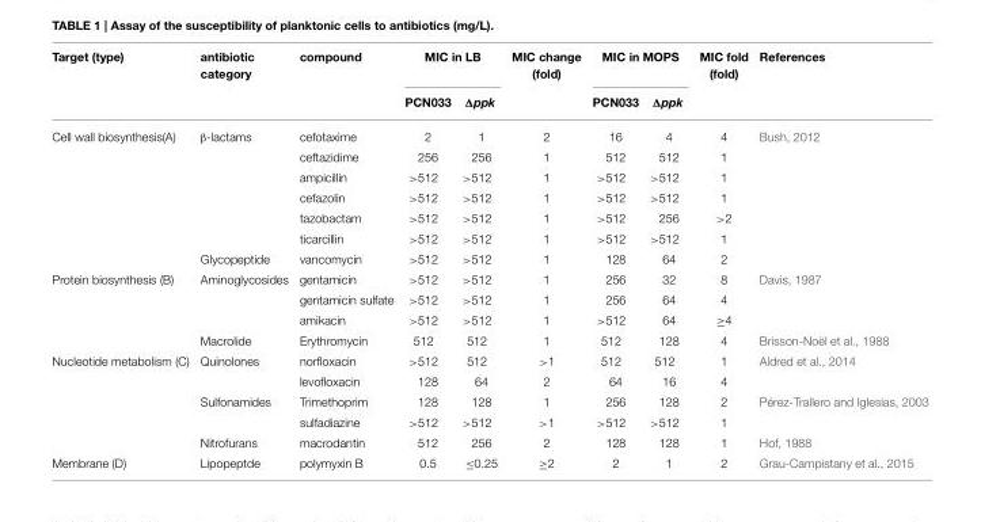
<table><thead><tr><td rowspan="2">Target (type)</td><td rowspan="2">antibiotic category</td><td rowspan="2">compound</td><td colspan="2">MIC in LB</td><td rowspan="2">MIC change (fold)</td><td colspan="2">MIC in MOPS</td><td rowspan="2">MIC fold (fold)</td><td rowspan="2">References</td></tr><tr><td>PCN033</td><td>Δppk</td><td>PCN033</td><td>Δppk</td></tr></thead><tbody><tr><td rowspan="7">Cell wall biosynthesis(A)</td><td>β-lactams</td><td>cefotaxime</td><td>2</td><td>1</td><td>2</td><td>16</td><td>4</td><td>4</td><td>Bush, 2012</td></tr><tr><td></td><td>ceftazidime</td><td>256</td><td>256</td><td>1</td><td>512</td><td>512</td><td>1</td><td></td></tr><tr><td></td><td>ampicillin</td><td>&gt;512</td><td>&gt;512</td><td>1</td><td>&gt;512</td><td>&gt;512</td><td>1</td><td></td></tr><tr><td></td><td>cefazolin</td><td>&gt;512</td><td>&gt;512</td><td>1</td><td>&gt;512</td><td>&gt;512</td><td>1</td><td></td></tr><tr><td></td><td>tazobactam</td><td>&gt;512</td><td>&gt;512</td><td>1</td><td>&gt;512</td><td>256</td><td>&gt;2</td><td></td></tr><tr><td></td><td>ticarcillin</td><td>&gt;512</td><td>&gt;512</td><td>1</td><td>&gt;512</td><td>&gt;512</td><td>1</td><td></td></tr><tr><td>Glycopeptide</td><td>vancomycin</td><td>&gt;512</td><td>&gt;512</td><td>1</td><td>128</td><td>64</td><td>2</td><td></td></tr><tr><td rowspan="4">Protein biosynthesis (B)</td><td>Aminoglycosides</td><td>gentamicin</td><td>&gt;512</td><td>&gt;512</td><td>1</td><td>256</td><td>32</td><td>8</td><td>Davis, 1987</td></tr><tr><td></td><td>gentamicin sulfate</td><td>&gt;512</td><td>&gt;512</td><td>1</td><td>256</td><td>64</td><td>4</td><td></td></tr><tr><td></td><td>amikacin</td><td>&gt;512</td><td>&gt;512</td><td>1</td><td>&gt;512</td><td>64</td><td>≥4</td><td></td></tr><tr><td>Macrolide</td><td>Erythromycin</td><td>512</td><td>512</td><td>1</td><td>512</td><td>128</td><td>4</td><td>Brisson-Noël et al., 1988</td></tr><tr><td rowspan="5">Nucleotide metabolism (C)</td><td>Quinolones</td><td>norfloxacin</td><td>&gt;512</td><td>512</td><td>&gt;1</td><td>512</td><td>512</td><td>1</td><td>Aldred et al., 2014</td></tr><tr><td></td><td>levofloxacin</td><td>128</td><td>64</td><td>2</td><td>64</td><td>16</td><td>4</td><td></td></tr><tr><td>Sulfonamides</td><td>Trimethoprim</td><td>128</td><td>128</td><td>1</td><td>256</td><td>128</td><td>2</td><td>Pérez-Trallero and Iglesias, 2003</td></tr><tr><td></td><td>sulfadiazine</td><td>&gt;512</td><td>&gt;512</td><td>&gt;1</td><td>&gt;512</td><td>&gt;512</td><td>1</td><td></td></tr><tr><td>Nitrofurans</td><td>macrodantin</td><td>512</td><td>256</td><td>2</td><td>128</td><td>128</td><td>1</td><td>Hof, 1988</td></tr><tr><td>Membrane (D)</td><td>Lipopeptde</td><td>polymyxin B</td><td>0.5</td><td>≤0.25</td><td>≥2</td><td>2</td><td>1</td><td>2</td><td>Grau-Campistany et al., 2015</td></tr></tbody></table>